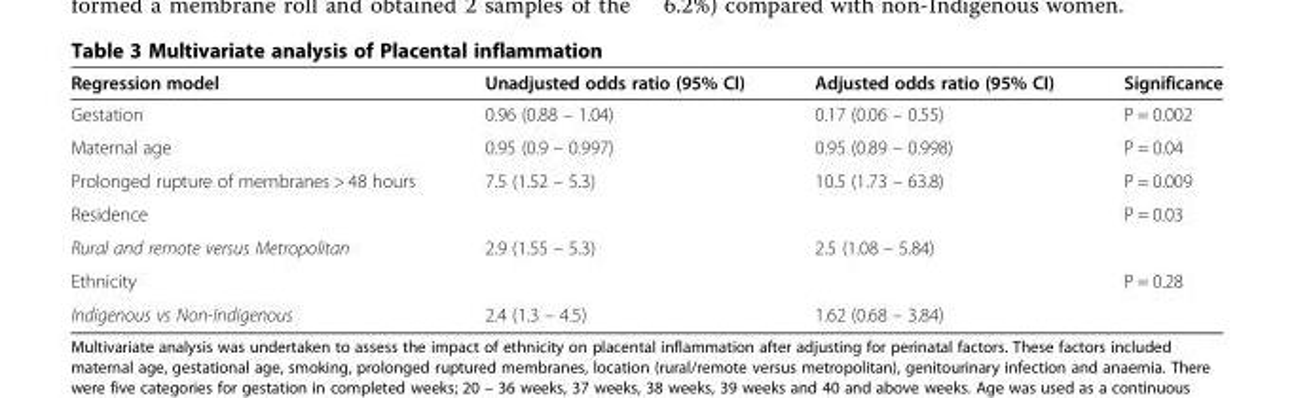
<table><thead><tr><td>Regression model</td><td>Unadjusted odds ratio (95% CI)</td><td>Adjusted odds ratio (95% CI)</td><td>Significance</td></tr></thead><tbody><tr><td>Gestation</td><td>0.96 (0.88 – 1.04)</td><td>0.17 (0.06 – 0.55)</td><td>P = 0.002</td></tr><tr><td>Maternal age</td><td>0.95 (0.9 – 0.997)</td><td>0.95 (0.89 – 0.998)</td><td>P = 0.04</td></tr><tr><td>Prolonged rupture of membranes &gt; 48 hours</td><td>7.5 (1.52 – 5.3)</td><td>10.5 (1.73 – 63.8)</td><td>P = 0.009</td></tr><tr><td colspan="3">Residence</td><td rowspan="2">P = 0.03</td></tr><tr><td>Rural and remote versus Metropolitan</td><td>2.9 (1.55 – 5.3)</td><td>2.5 (1.08 – 5.84)</td></tr><tr><td colspan="3">Ethnicity</td><td rowspan="2">P = 0.28</td></tr><tr><td>Indigenous vs Non-Indigenous</td><td>2.4 (1.3 – 4.5)</td><td>1.62 (0.68 – 3.84)</td></tr></tbody></table>